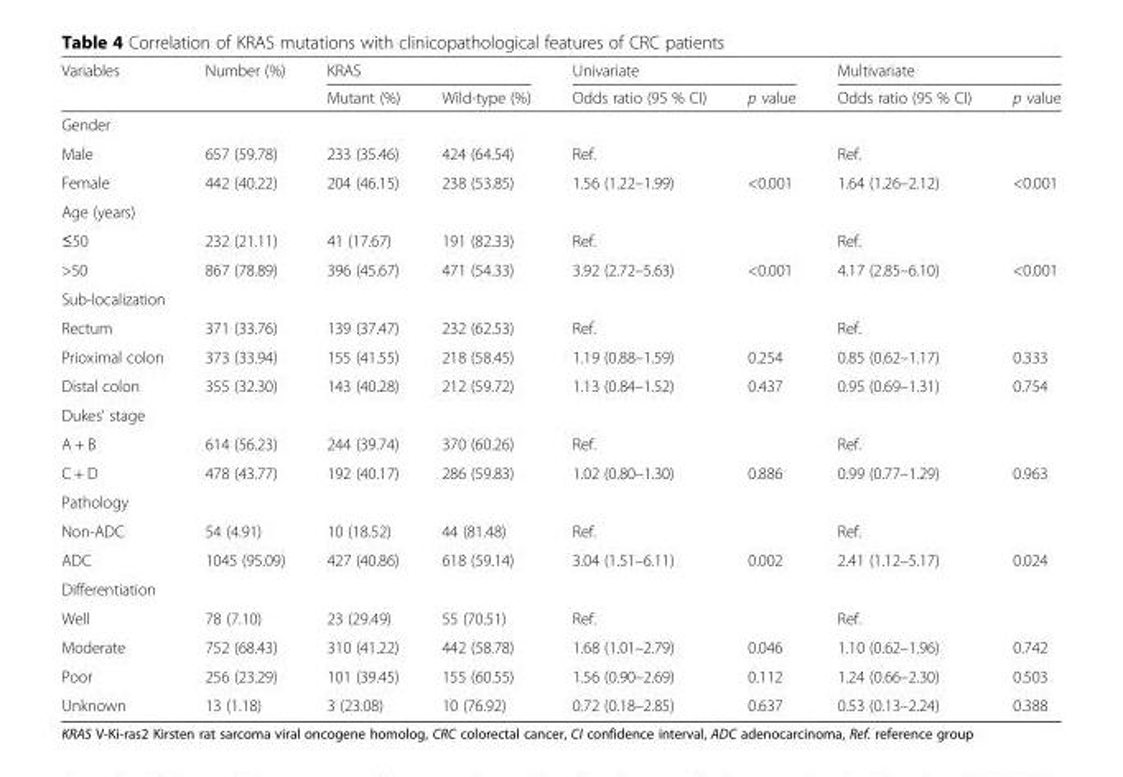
<table><thead><tr><td rowspan="2">Variables</td><td rowspan="2">Number (%)</td><td colspan="2">KRAS</td><td colspan="2">Univariate</td><td colspan="2">Multivariate</td></tr><tr><td>Mutant (%)</td><td>Wild-type (%)</td><td>Odds ratio (95 % CI)</td><td>p value</td><td>Odds ratio (95 % CI)</td><td>p value</td></tr></thead><tbody><tr><td colspan="8">Gender</td></tr><tr><td>Male</td><td>657 (59.78)</td><td>233 (35.46)</td><td>424 (64.54)</td><td>Ref.</td><td></td><td>Ref.</td><td></td></tr><tr><td>Female</td><td>442 (40.22)</td><td>204 (46.15)</td><td>238 (53.85)</td><td>1.56 (1.22–1.99)</td><td>&lt;0.001</td><td>1.64 (1.26–2.12)</td><td>&lt;0.001</td></tr><tr><td colspan="8">Age (years)</td></tr><tr><td>≤50</td><td>232 (21.11)</td><td>41 (17.67)</td><td>191 (82.33)</td><td>Ref.</td><td></td><td>Ref.</td><td></td></tr><tr><td>&gt;50</td><td>867 (78.89)</td><td>396 (45.67)</td><td>471 (54.33)</td><td>3.92 (2.72–5.63)</td><td>&lt;0.001</td><td>4.17 (2.85–6.10)</td><td>&lt;0.001</td></tr><tr><td colspan="8">Sub-localization</td></tr><tr><td>Rectum</td><td>371 (33.76)</td><td>139 (37.47)</td><td>232 (62.53)</td><td>Ref.</td><td></td><td>Ref.</td><td></td></tr><tr><td>Prioximal colon</td><td>373 (33.94)</td><td>155 (41.55)</td><td>218 (58.45)</td><td>1.19 (0.88–1.59)</td><td>0.254</td><td>0.85 (0.62–1.17)</td><td>0.333</td></tr><tr><td>Distal colon</td><td>355 (32.30)</td><td>143 (40.28)</td><td>212 (59.72)</td><td>1.13 (0.84–1.52)</td><td>0.437</td><td>0.95 (0.69–1.31)</td><td>0.754</td></tr><tr><td colspan="8">Dukes’ stage</td></tr><tr><td>A + B</td><td>614 (56.23)</td><td>244 (39.74)</td><td>370 (60.26)</td><td>Ref.</td><td></td><td>Ref.</td><td></td></tr><tr><td>C + D</td><td>478 (43.77)</td><td>192 (40.17)</td><td>286 (59.83)</td><td>1.02 (0.80–1.30)</td><td>0.886</td><td>0.99 (0.77–1.29)</td><td>0.963</td></tr><tr><td colspan="8">Pathology</td></tr><tr><td>Non-ADC</td><td>54 (4.91)</td><td>10 (18.52)</td><td>44 (81.48)</td><td>Ref.</td><td></td><td>Ref.</td><td></td></tr><tr><td>ADC</td><td>1045 (95.09)</td><td>427 (40.86)</td><td>618 (59.14)</td><td>3.04 (1.51–6.11)</td><td>0.002</td><td>2.41 (1.12–5.17)</td><td>0.024</td></tr><tr><td colspan="8">Differentiation</td></tr><tr><td>Well</td><td>78 (7.10)</td><td>23 (29.49)</td><td>55 (70.51)</td><td>Ref.</td><td></td><td>Ref.</td><td></td></tr><tr><td>Moderate</td><td>752 (68.43)</td><td>310 (41.22)</td><td>442 (58.78)</td><td>1.68 (1.01–2.79)</td><td>0.046</td><td>1.10 (0.62–1.96)</td><td>0.742</td></tr><tr><td>Poor</td><td>256 (23.29)</td><td>101 (39.45)</td><td>155 (60.55)</td><td>1.56 (0.90–2.69)</td><td>0.112</td><td>1.24 (0.66–2.30)</td><td>0.503</td></tr><tr><td>Unknown</td><td>13 (1.18)</td><td>3 (23.08)</td><td>10 (76.92)</td><td>0.72 (0.18–2.85)</td><td>0.637</td><td>0.53 (0.13–2.24)</td><td>0.388</td></tr></tbody></table>